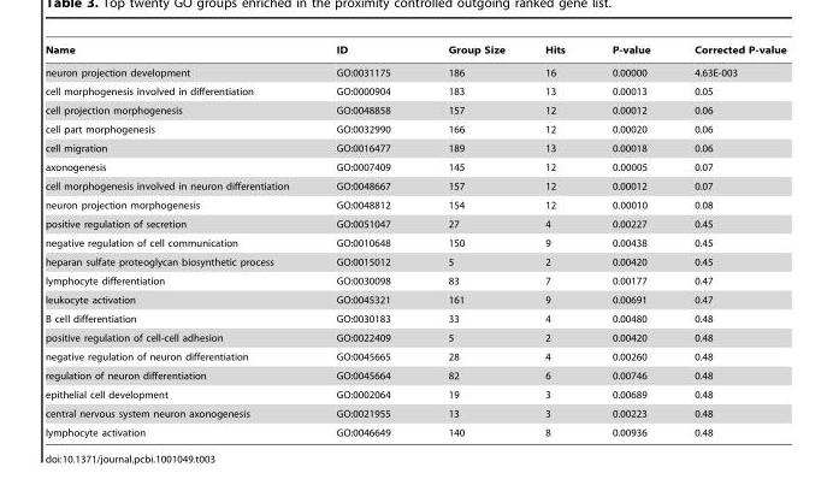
<table><thead><tr><td>Name</td><td>ID</td><td>Group Size</td><td>Hits</td><td>P-value</td><td>Corrected P-value</td></tr></thead><tbody><tr><td>neuron projection development</td><td>GO:0031175</td><td>186</td><td>16</td><td>0.00000</td><td>4.63E-003</td></tr><tr><td>cell morphogenesis involved in differentiation</td><td>GO:0000904</td><td>183</td><td>13</td><td>0.00013</td><td>0.05</td></tr><tr><td>cell projection morphogenesis</td><td>GO:0048858</td><td>157</td><td>12</td><td>0.00012</td><td>0.06</td></tr><tr><td>cell part morphogenesis</td><td>GO:0032990</td><td>166</td><td>12</td><td>0.00020</td><td>0.06</td></tr><tr><td>cell migration</td><td>GO:0016477</td><td>189</td><td>13</td><td>0.00018</td><td>0.06</td></tr><tr><td>axonogenesis</td><td>GO:0007409</td><td>145</td><td>12</td><td>0.00005</td><td>0.07</td></tr><tr><td>cell morphogenesis involved in neuron differentiation</td><td>GO:0048667</td><td>157</td><td>12</td><td>0.00012</td><td>0.07</td></tr><tr><td>neuron projection morphogenesis</td><td>GO:0048812</td><td>154</td><td>12</td><td>0.00010</td><td>0.08</td></tr><tr><td>positive regulation of secretion</td><td>GO:0051047</td><td>27</td><td>4</td><td>0.00227</td><td>0.45</td></tr><tr><td>negative regulation of cell communication</td><td>GO:0010648</td><td>150</td><td>9</td><td>0.00438</td><td>0.45</td></tr><tr><td>heparan sulfate proteoglycan biosynthetic process</td><td>GO:0015012</td><td>5</td><td>2</td><td>0.00420</td><td>0.45</td></tr><tr><td>lymphocyte differentiation</td><td>GO:0030098</td><td>83</td><td>7</td><td>0.00177</td><td>0.47</td></tr><tr><td>leukocyte activation</td><td>GO:0045321</td><td>161</td><td>9</td><td>0.00691</td><td>0.47</td></tr><tr><td>B cell differentiation</td><td>GO:0030183</td><td>33</td><td>4</td><td>0.00480</td><td>0.48</td></tr><tr><td>positive regulation of cell-cell adhesion</td><td>GO:0022409</td><td>5</td><td>2</td><td>0.00420</td><td>0.48</td></tr><tr><td>negative regulation of neuron differentiation</td><td>GO:0045665</td><td>28</td><td>4</td><td>0.00260</td><td>0.48</td></tr><tr><td>regulation of neuron differentiation</td><td>GO:0045664</td><td>82</td><td>6</td><td>0.00746</td><td>0.48</td></tr><tr><td>epithelial cell development</td><td>GO:0002064</td><td>19</td><td>3</td><td>0.00689</td><td>0.48</td></tr><tr><td>central nervous system neuron axonogenesis</td><td>GO:0021955</td><td>13</td><td>3</td><td>0.00223</td><td>0.48</td></tr><tr><td>lymphocyte activation</td><td>GO:0046649</td><td>140</td><td>8</td><td>0.00936</td><td>0.48</td></tr></tbody></table>